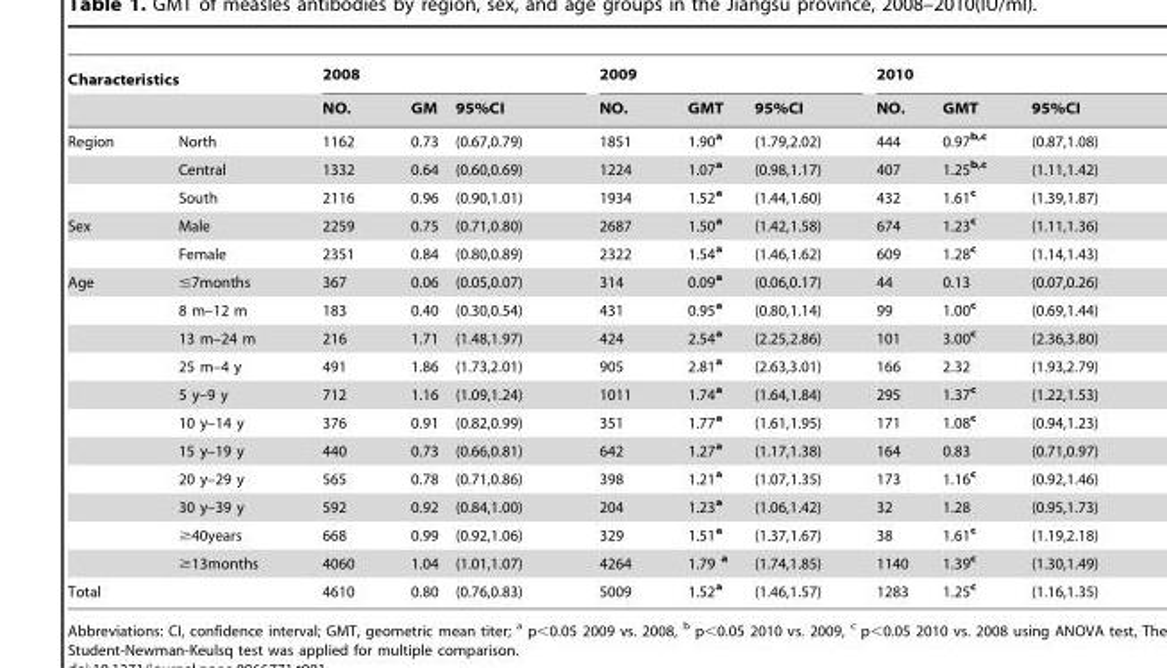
<table><thead><tr><td colspan="2">Characteristics</td><td colspan="3">2008</td><td colspan="3">2009</td><td colspan="3">2010</td></tr><tr><td></td><td></td><td>NO.</td><td>GM</td><td>95%CI</td><td>NO.</td><td>GMT</td><td>95%CI</td><td>NO.</td><td>GMT</td><td>95%CI</td></tr></thead><tbody><tr><td rowspan="3">Region</td><td>North</td><td>1162</td><td>0.73</td><td>(0.67,0.79)</td><td>1851</td><td>1.90<sup>a</sup></td><td>(1.79,2.02)</td><td>444</td><td>0.97<sup>b,c</sup></td><td>(0.87,1.08)</td></tr><tr><td>Central</td><td>1332</td><td>0.64</td><td>(0.60,0.69)</td><td>1224</td><td>1.07<sup>a</sup></td><td>(0.98,1.17)</td><td>407</td><td>1.25<sup>b,c</sup></td><td>(1.11,1.42)</td></tr><tr><td>South</td><td>2116</td><td>0.96</td><td>(0.90,1.01)</td><td>1934</td><td>1.52<sup>a</sup></td><td>(1.44,1.60)</td><td>432</td><td>1.61<sup>c</sup></td><td>(1.39,1.87)</td></tr><tr><td rowspan="2">Sex</td><td>Male</td><td>2259</td><td>0.75</td><td>(0.71,0.80)</td><td>2687</td><td>1.50<sup>a</sup></td><td>(1.42,1.58)</td><td>674</td><td>1.23<sup>c</sup></td><td>(1.11,1.36)</td></tr><tr><td>Female</td><td>2351</td><td>0.84</td><td>(0.80,0.89)</td><td>2322</td><td>1.54<sup>a</sup></td><td>(1.46,1.62)</td><td>609</td><td>1.28<sup>c</sup></td><td>(1.14,1.43)</td></tr><tr><td rowspan="11">Age</td><td>≤7months</td><td>367</td><td>0.06</td><td>(0.05,0.07)</td><td>314</td><td>0.09<sup>a</sup></td><td>(0.06,0.17)</td><td>44</td><td>0.13</td><td>(0.07,0.26)</td></tr><tr><td>8 m–12 m</td><td>183</td><td>0.40</td><td>(0.30,0.54)</td><td>431</td><td>0.95<sup>a</sup></td><td>(0.80,1.14)</td><td>99</td><td>1.00<sup>c</sup></td><td>(0.69,1.44)</td></tr><tr><td>13 m–24 m</td><td>216</td><td>1.71</td><td>(1.48,1.97)</td><td>424</td><td>2.54<sup>a</sup></td><td>(2.25,2.86)</td><td>101</td><td>3.00<sup>c</sup></td><td>(2.36,3.80)</td></tr><tr><td>25 m–4 y</td><td>491</td><td>1.86</td><td>(1.73,2.01)</td><td>905</td><td>2.81<sup>a</sup></td><td>(2.63,3.01)</td><td>166</td><td>2.32</td><td>(1.93,2.79)</td></tr><tr><td>5 y–9 y</td><td>712</td><td>1.16</td><td>(1.09,1.24)</td><td>1011</td><td>1.74<sup>a</sup></td><td>(1.64,1.84)</td><td>295</td><td>1.37<sup>c</sup></td><td>(1.22,1.53)</td></tr><tr><td>10 y–14 y</td><td>376</td><td>0.91</td><td>(0.82,0.99)</td><td>351</td><td>1.77<sup>a</sup></td><td>(1.61,1.95)</td><td>171</td><td>1.08<sup>c</sup></td><td>(0.94,1.23)</td></tr><tr><td>15 y–19 y</td><td>440</td><td>0.73</td><td>(0.66,0.81)</td><td>642</td><td>1.27<sup>a</sup></td><td>(1.17,1.38)</td><td>164</td><td>0.83</td><td>(0.71,0.97)</td></tr><tr><td>20 y–29 y</td><td>565</td><td>0.78</td><td>(0.71,0.86)</td><td>398</td><td>1.21<sup>a</sup></td><td>(1.07,1.35)</td><td>173</td><td>1.16<sup>c</sup></td><td>(0.92,1.46)</td></tr><tr><td>30 y–39 y</td><td>592</td><td>0.92</td><td>(0.84,1.00)</td><td>204</td><td>1.23<sup>a</sup></td><td>(1.06,1.42)</td><td>32</td><td>1.28</td><td>(0.95,1.73)</td></tr><tr><td>≥40years</td><td>668</td><td>0.99</td><td>(0.92,1.06)</td><td>329</td><td>1.51<sup>a</sup></td><td>(1.37,1.67)</td><td>38</td><td>1.61<sup>c</sup></td><td>(1.19,2.18)</td></tr><tr><td>≥13months</td><td>4060</td><td>1.04</td><td>(1.01,1.07)</td><td>4264</td><td>1.79 <sup>a</sup></td><td>(1.74,1.85)</td><td>1140</td><td>1.39<sup>c</sup></td><td>(1.30,1.49)</td></tr><tr><td colspan="2">Total</td><td>4610</td><td>0.80</td><td>(0.76,0.83)</td><td>5009</td><td>1.52<sup>a</sup></td><td>(1.46,1.57)</td><td>1283</td><td>1.25<sup>c</sup></td><td>(1.16,1.35)</td></tr></tbody></table>